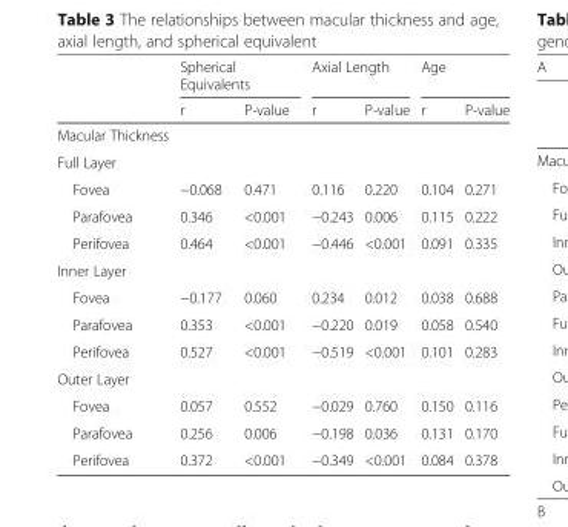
<table><thead><tr><td rowspan="2"></td><td colspan="2">Spherical Equivalents</td><td colspan="2">Axial Length</td><td colspan="2">Age</td></tr><tr><td>r</td><td>P-value</td><td>r</td><td>P-value</td><td>r</td><td>P-value</td></tr></thead><tbody><tr><td colspan="7">Macular Thickness</td></tr><tr><td colspan="7">Full Layer</td></tr><tr><td>Fovea</td><td>−0.068</td><td>0.471</td><td>0.116</td><td>0.220</td><td>0.104</td><td>0.271</td></tr><tr><td>Parafovea</td><td>0.346</td><td>&lt;0.001</td><td>−0.243</td><td>0.006</td><td>0.115</td><td>0.222</td></tr><tr><td>Perifovea</td><td>0.464</td><td>&lt;0.001</td><td>−0.446</td><td>&lt;0.001</td><td>0.091</td><td>0.335</td></tr><tr><td colspan="7">Inner Layer</td></tr><tr><td>Fovea</td><td>−0.177</td><td>0.060</td><td>0.234</td><td>0.012</td><td>0.038</td><td>0.688</td></tr><tr><td>Parafovea</td><td>0.353</td><td>&lt;0.001</td><td>−0.220</td><td>0.019</td><td>0.058</td><td>0.540</td></tr><tr><td>Perifovea</td><td>0.527</td><td>&lt;0.001</td><td>−0.519</td><td>&lt;0.001</td><td>0.101</td><td>0.283</td></tr><tr><td colspan="7">Outer Layer</td></tr><tr><td>Fovea</td><td>0.057</td><td>0.552</td><td>−0.029</td><td>0.760</td><td>0.150</td><td>0.116</td></tr><tr><td>Parafovea</td><td>0.256</td><td>0.006</td><td>−0.198</td><td>0.036</td><td>0.131</td><td>0.170</td></tr><tr><td>Perifovea</td><td>0.372</td><td>&lt;0.001</td><td>−0.349</td><td>&lt;0.001</td><td>0.084</td><td>0.378</td></tr></tbody></table>